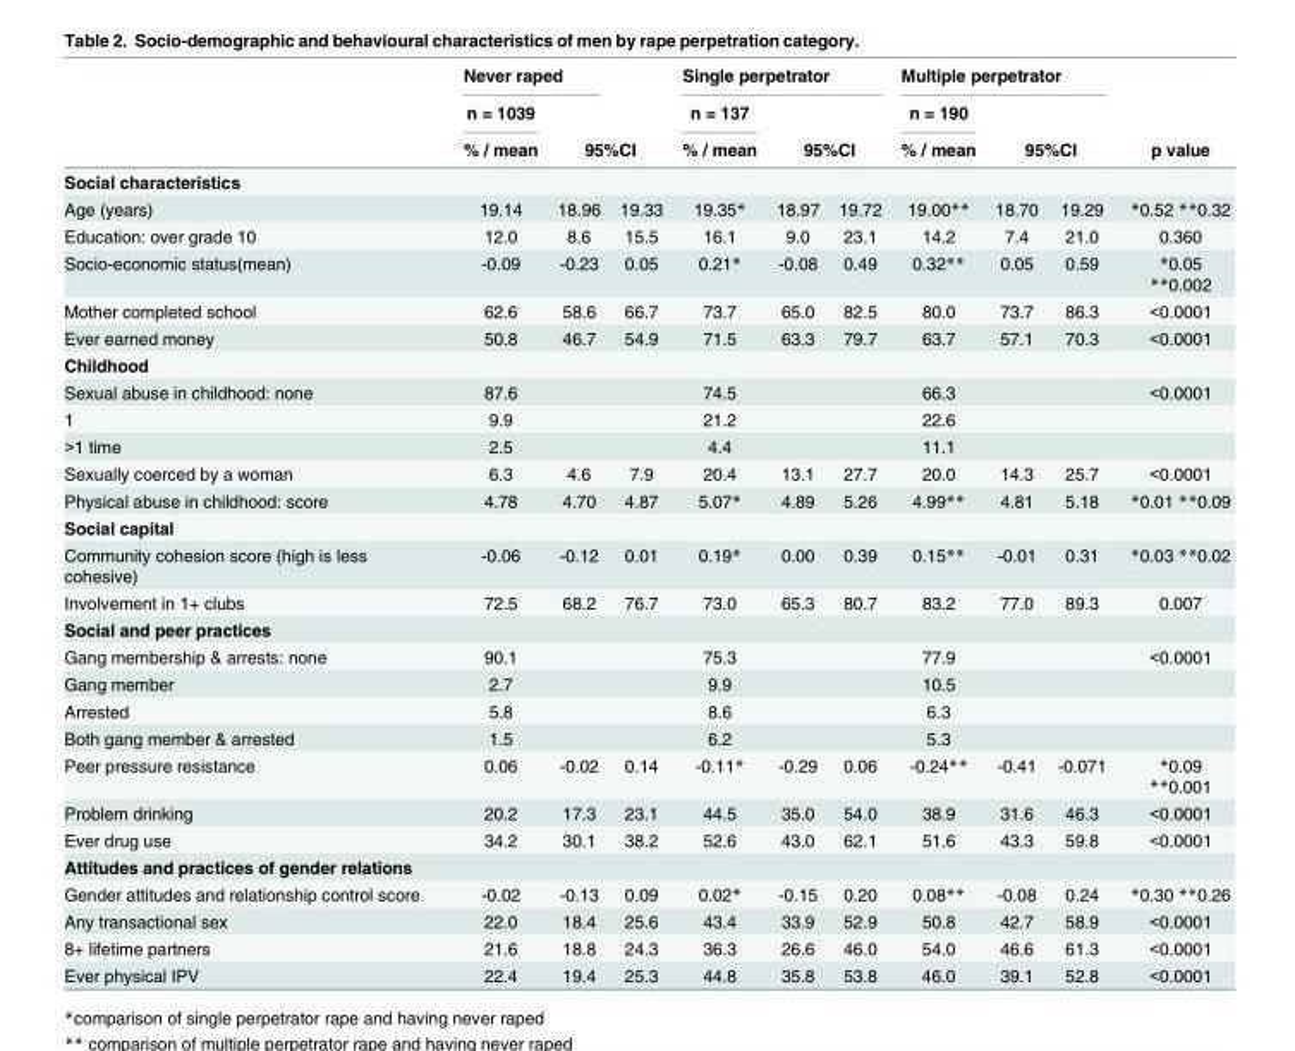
<table><thead><tr><td rowspan="3"></td><td colspan="2">Never raped</td><td rowspan="2"></td><td colspan="3">Single perpetrator</td><td colspan="3">Multiple perpetrator</td><td rowspan="3">p value</td></tr><tr><td rowspan="2">n = 1039 % / mean</td><td></td><td rowspan="2">n = 137 % / mean</td><td></td><td></td><td rowspan="2">n = 190 % / mean</td><td></td><td></td></tr><tr><td colspan="2">95%CI</td><td colspan="2">95%CI</td><td colspan="2">95%CI</td></tr></thead><tbody><tr><td colspan="11">Social characteristics</td></tr><tr><td>Age (years)</td><td>19.14</td><td>18.96</td><td>19.33</td><td>19.35*</td><td>18.97</td><td>19.72</td><td>19.00**</td><td>18.70</td><td>19.29</td><td>*0.52 **0.32</td></tr><tr><td>Education: over grade 10</td><td>12.0</td><td>8.6</td><td>15.5</td><td>16.1</td><td>9.0</td><td>23.1</td><td>14.2</td><td>7.4</td><td>21.0</td><td>0.360</td></tr><tr><td>Socio-economic status(mean)</td><td>-0.09</td><td>-0.23</td><td>0.05</td><td>0.21*</td><td>-0.08</td><td>0.49</td><td>0.32**</td><td>0.05</td><td>0.59</td><td>*0.05 **0.002</td></tr><tr><td>Mother completed school</td><td>62.6</td><td>58.6</td><td>66.7</td><td>73.7</td><td>65.0</td><td>82.5</td><td>80.0</td><td>73.7</td><td>86.3</td><td>&lt;0.0001</td></tr><tr><td>Ever earned money</td><td>50.8</td><td>46.7</td><td>54.9</td><td>71.5</td><td>63.3</td><td>79.7</td><td>63.7</td><td>57.1</td><td>70.3</td><td>&lt;0.0001</td></tr><tr><td colspan="11">Childhood</td></tr><tr><td>Sexual abuse in childhood: none</td><td>87.6</td><td></td><td></td><td>74.5</td><td></td><td></td><td>66.3</td><td></td><td></td><td>&lt;0.0001</td></tr><tr><td>1</td><td>9.9</td><td></td><td></td><td>21.2</td><td></td><td></td><td>22.6</td><td></td><td></td><td></td></tr><tr><td>&gt;1 time</td><td>2.5</td><td></td><td></td><td>4.4</td><td></td><td></td><td>11.1</td><td></td><td></td><td></td></tr><tr><td>Sexually coerced by a woman</td><td>6.3</td><td>4.6</td><td>7.9</td><td>20.4</td><td>13.1</td><td>27.7</td><td>20.0</td><td>14.3</td><td>25.7</td><td>&lt;0.0001</td></tr><tr><td>Physical abuse in childhood: score</td><td>4.78</td><td>4.70</td><td>4.87</td><td>5.07*</td><td>4.89</td><td>5.26</td><td>4.99**</td><td>4.81</td><td>5.18</td><td>*0.01 **0.09</td></tr><tr><td colspan="11">Social capital</td></tr><tr><td>Community cohesion score (high is less cohesive)</td><td>-0.06</td><td>-0.12</td><td>0.01</td><td>0.19*</td><td>0.00</td><td>0.39</td><td>0.15**</td><td>-0.01</td><td>0.31</td><td>*0.03 **0.02</td></tr><tr><td>Involvement in 1+ clubs</td><td>72.5</td><td>68.2</td><td>76.7</td><td>73.0</td><td>65.3</td><td>80.7</td><td>83.2</td><td>77.0</td><td>89.3</td><td>0.007</td></tr><tr><td colspan="11">Social and peer practices</td></tr><tr><td>Gang membership &amp; arrests: none</td><td>90.1</td><td></td><td></td><td>75.3</td><td></td><td></td><td>77.9</td><td></td><td></td><td>&lt;0.0001</td></tr><tr><td>Gang member</td><td>2.7</td><td></td><td></td><td>9.9</td><td></td><td></td><td>10.5</td><td></td><td></td><td></td></tr><tr><td>Arrested</td><td>5.8</td><td></td><td></td><td>8.6</td><td></td><td></td><td>6.3</td><td></td><td></td><td></td></tr><tr><td>Both gang member &amp; arrested</td><td>1.5</td><td></td><td></td><td>6.2</td><td></td><td></td><td>5.3</td><td></td><td></td><td></td></tr><tr><td>Peer pressure resistance</td><td>0.06</td><td>-0.02</td><td>0.14</td><td>-0.11*</td><td>-0.29</td><td>0.06</td><td>-0.24**</td><td>-0.41</td><td>-0.071</td><td>*0.09 **0.001</td></tr><tr><td>Problem drinking</td><td>20.2</td><td>17.3</td><td>23.1</td><td>44.5</td><td>35.0</td><td>54.0</td><td>38.9</td><td>31.6</td><td>46.3</td><td>&lt;0.0001</td></tr><tr><td>Ever drug use</td><td>34.2</td><td>30.1</td><td>38.2</td><td>52.6</td><td>43.0</td><td>62.1</td><td>51.6</td><td>43.3</td><td>59.8</td><td>&lt;0.0001</td></tr><tr><td colspan="11">Attitudes and practices of gender relations</td></tr><tr><td>Gender attitudes and relationship control score</td><td>-0.02</td><td>-0.13</td><td>0.09</td><td>0.02*</td><td>-0.15</td><td>0.20</td><td>0.08**</td><td>-0.08</td><td>0.24</td><td>*0.30 **0.26</td></tr><tr><td>Any transactional sex</td><td>22.0</td><td>18.4</td><td>25.6</td><td>43.4</td><td>33.9</td><td>52.9</td><td>50.8</td><td>42.7</td><td>58.9</td><td>&lt;0.0001</td></tr><tr><td>8+ lifetime partners</td><td>21.6</td><td>18.8</td><td>24.3</td><td>36.3</td><td>26.6</td><td>46.0</td><td>54.0</td><td>46.6</td><td>61.3</td><td>&lt;0.0001</td></tr><tr><td>Ever physical IPV</td><td>22.4</td><td>19.4</td><td>25.3</td><td>44.8</td><td>35.8</td><td>53.8</td><td>46.0</td><td>39.1</td><td>52.8</td><td>&lt;0.0001</td></tr></tbody></table>